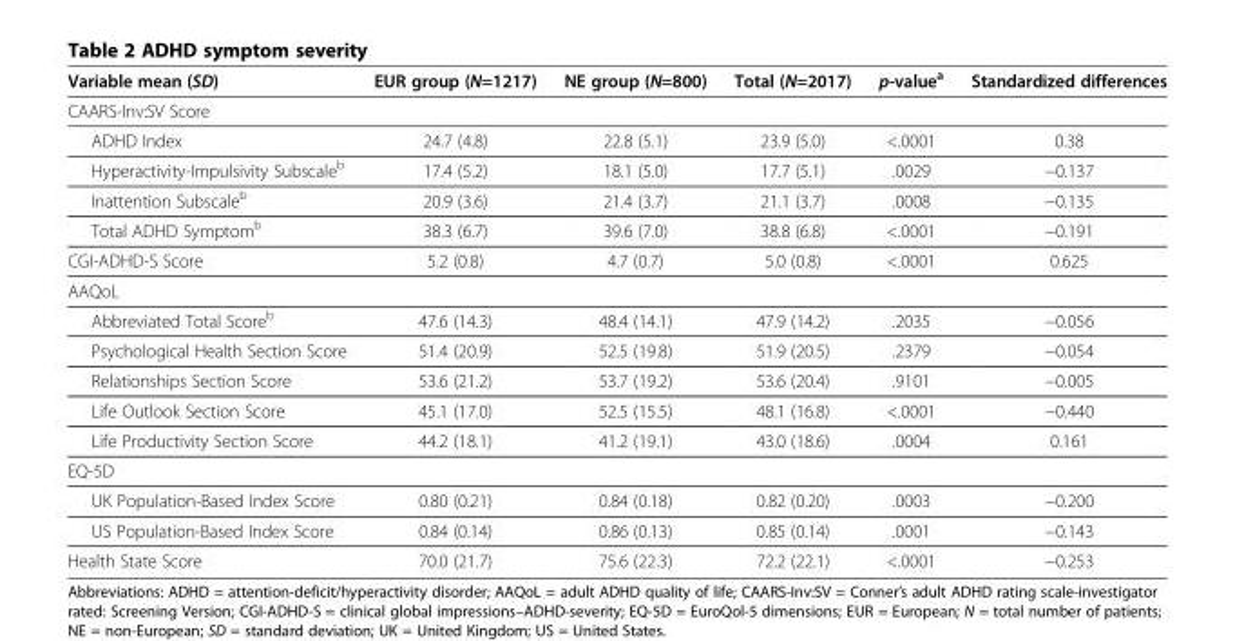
<table><thead><tr><td>Variable mean (SD)</td><td>EUR group (N=1217)</td><td>NE group (N=800)</td><td>Total (N=2017)</td><td>p-value<sup>a</sup></td><td>Standardized differences</td></tr></thead><tbody><tr><td colspan="6">CAARS-Inv:SV Score</td></tr><tr><td>ADHD Index</td><td>24.7 (4.8)</td><td>22.8 (5.1)</td><td>23.9 (5.0)</td><td>&lt;.0001</td><td>0.38</td></tr><tr><td>Hyperactivity-Impulsivity Subscale<sup>b</sup></td><td>17.4 (5.2)</td><td>18.1 (5.0)</td><td>17.7 (5.1)</td><td>.0029</td><td>−0.137</td></tr><tr><td>Inattention Subscale<sup>b</sup></td><td>20.9 (3.6)</td><td>21.4 (3.7)</td><td>21.1 (3.7)</td><td>.0008</td><td>−0.135</td></tr><tr><td>Total ADHD Symptom<sup>b</sup></td><td>38.3 (6.7)</td><td>39.6 (7.0)</td><td>38.8 (6.8)</td><td>&lt;.0001</td><td>−0.191</td></tr><tr><td>CGI-ADHD-S Score</td><td>5.2 (0.8)</td><td>4.7 (0.7)</td><td>5.0 (0.8)</td><td>&lt;.0001</td><td>0.625</td></tr><tr><td colspan="6">AAQoL</td></tr><tr><td>Abbreviated Total Score<sup>b</sup></td><td>47.6 (14.3)</td><td>48.4 (14.1)</td><td>47.9 (14.2)</td><td>.2035</td><td>−0.056</td></tr><tr><td>Psychological Health Section Score</td><td>51.4 (20.9)</td><td>52.5 (19.8)</td><td>51.9 (20.5)</td><td>.2379</td><td>−0.054</td></tr><tr><td>Relationships Section Score</td><td>53.6 (21.2)</td><td>53.7 (19.2)</td><td>53.6 (20.4)</td><td>.9101</td><td>−0.005</td></tr><tr><td>Life Outlook Section Score</td><td>45.1 (17.0)</td><td>52.5 (15.5)</td><td>48.1 (16.8)</td><td>&lt;.0001</td><td>−0.440</td></tr><tr><td>Life Productivity Section Score</td><td>44.2 (18.1)</td><td>41.2 (19.1)</td><td>43.0 (18.6)</td><td>.0004</td><td>0.161</td></tr><tr><td colspan="6">EQ-5D</td></tr><tr><td>UK Population-Based Index Score</td><td>0.80 (0.21)</td><td>0.84 (0.18)</td><td>0.82 (0.20)</td><td>.0003</td><td>−0.200</td></tr><tr><td>US Population-Based Index Score</td><td>0.84 (0.14)</td><td>0.86 (0.13)</td><td>0.85 (0.14)</td><td>.0001</td><td>−0.143</td></tr><tr><td>Health State Score</td><td>70.0 (21.7)</td><td>75.6 (22.3)</td><td>72.2 (22.1)</td><td>&lt;.0001</td><td>−0.253</td></tr></tbody></table>